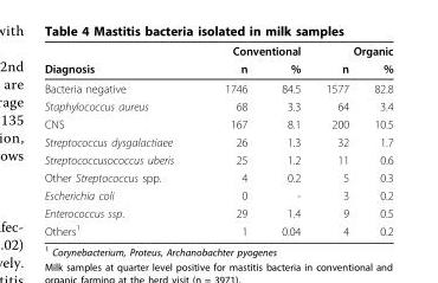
<table><thead><tr><td rowspan="2">Diagnosis</td><td colspan="2">Conventional</td><td colspan="2">Organic</td></tr><tr><td>n</td><td>%</td><td>n</td><td>%</td></tr></thead><tbody><tr><td>Bacteria negative</td><td>1746</td><td>84.5</td><td>1577</td><td>82.8</td></tr><tr><td>Staphylococcus aureus</td><td>68</td><td>3.3</td><td>64</td><td>3.4</td></tr><tr><td>CNS</td><td>167</td><td>8.1</td><td>200</td><td>10.5</td></tr><tr><td>Streptococcus dysgalactiaee</td><td>26</td><td>1.3</td><td>32</td><td>1.7</td></tr><tr><td>Streptococcusococcus uberis</td><td>25</td><td>1.2</td><td>11</td><td>0.6</td></tr><tr><td>Other Streptococcus spp.</td><td>4</td><td>0.2</td><td>5</td><td>0.3</td></tr><tr><td>Escherichia coli</td><td>0</td><td>-</td><td>3</td><td>0.2</td></tr><tr><td>Enterococcus ssp.</td><td>29</td><td>1.4</td><td>9</td><td>0.5</td></tr><tr><td>Others<sup>1</sup></td><td>1</td><td>0.04</td><td>4</td><td>0.2</td></tr></tbody></table>